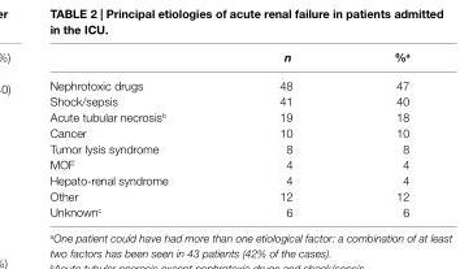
<table><thead><tr><td></td><td>n</td><td>%<sup>a</sup></td></tr></thead><tbody><tr><td>Nephrotoxic drugs</td><td>48</td><td>47</td></tr><tr><td>Shock/sepsis</td><td>41</td><td>40</td></tr><tr><td>Acute tubular necrosis<sup>b</sup></td><td>19</td><td>18</td></tr><tr><td>Cancer</td><td>10</td><td>10</td></tr><tr><td>Tumor lysis syndrome</td><td>8</td><td>8</td></tr><tr><td>MOF</td><td>4</td><td>4</td></tr><tr><td>Hepato-renal syndrome</td><td>4</td><td>4</td></tr><tr><td>Other</td><td>12</td><td>12</td></tr><tr><td>Unknown<sup>c</sup></td><td>6</td><td>6</td></tr></tbody></table>